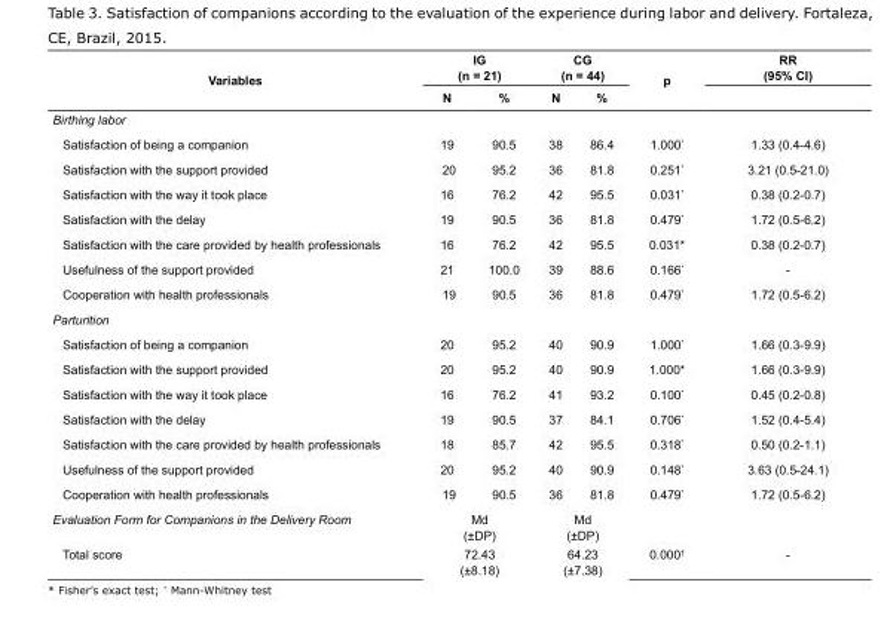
<table><tbody><tr><td rowspan="2">Variables</td><td colspan="2">IG (n = 21)</td><td colspan="2">CG (n = 44)</td><td>p</td><td>RR (95% CI)</td></tr><tr><td>N</td><td>%</td><td>N</td><td>%</td><td></td><td></td></tr><tr><td colspan="7">Birthing labor</td></tr><tr><td>Satisfaction of being a companion</td><td>19</td><td>90.5</td><td>38</td><td>86.4</td><td>1.000*</td><td>1.33 (0.4-4.6)</td></tr><tr><td>Satisfaction with the support provided</td><td>20</td><td>95.2</td><td>36</td><td>81.8</td><td>0.251*</td><td>3.21 (0.5-21.0)</td></tr><tr><td>Satisfaction with the way it took place</td><td>16</td><td>76.2</td><td>42</td><td>95.5</td><td>0.031*</td><td>0.38 (0.2-0.7)</td></tr><tr><td>Satisfaction with the delay</td><td>19</td><td>90.5</td><td>36</td><td>81.8</td><td>0.479*</td><td>1.72 (0.5-6.2)</td></tr><tr><td>Satisfaction with the care provided by health professionals</td><td>16</td><td>76.2</td><td>42</td><td>95.5</td><td>0.031*</td><td>0.38 (0.2-0.7)</td></tr><tr><td>Usefulness of the support provided</td><td>21</td><td>100.0</td><td>39</td><td>88.6</td><td>0.166*</td><td>-</td></tr><tr><td>Cooperation with health professionals</td><td>19</td><td>90.5</td><td>36</td><td>81.8</td><td>0.479*</td><td>1.72 (0.5-6.2)</td></tr><tr><td colspan="7">Parturition</td></tr><tr><td>Satisfaction of being a companion</td><td>20</td><td>95.2</td><td>40</td><td>90.9</td><td>1.000*</td><td>1.66 (0.3-9.9)</td></tr><tr><td>Satisfaction with the support provided</td><td>20</td><td>95.2</td><td>40</td><td>90.9</td><td>1.000*</td><td>1.66 (0.3-9.9)</td></tr><tr><td>Satisfaction with the way it took place</td><td>16</td><td>76.2</td><td>41</td><td>93.2</td><td>0.100*</td><td>0.45 (0.2-0.8)</td></tr><tr><td>Satisfaction with the delay</td><td>19</td><td>90.5</td><td>37</td><td>84.1</td><td>0.706*</td><td>1.52 (0.4-5.4)</td></tr><tr><td>Satisfaction with the care provided by health professionals</td><td>18</td><td>85.7</td><td>42</td><td>95.5</td><td>0.318*</td><td>0.50 (0.2-1.1)</td></tr><tr><td>Usefulness of the support provided</td><td>20</td><td>95.2</td><td>40</td><td>90.9</td><td>0.148*</td><td>3.63 (0.5-24.1)</td></tr><tr><td>Cooperation with health professionals</td><td>19</td><td>90.5</td><td>36</td><td>81.8</td><td>0.479*</td><td>1.72 (0.5-6.2)</td></tr><tr><td>Evaluation Form for Companions in the Delivery Room</td><td colspan="2">Md (±DP)</td><td colspan="2">Md (±DP)</td><td></td><td></td></tr><tr><td>Total score</td><td colspan="2">72.43 (±8.18)</td><td colspan="2">64.23 (±7.38)</td><td>0.000<sup>†</sup></td><td>-</td></tr></tbody></table>